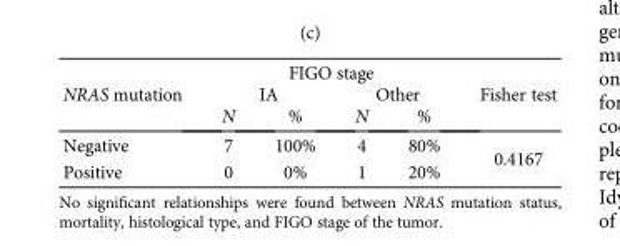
<table><thead><tr><td rowspan="3">NRAS mutation</td><td colspan="4">FIGO stage</td><td rowspan="3">Fisher test</td></tr><tr><td colspan="2">IA</td><td colspan="2">Other</td></tr><tr><td>N</td><td>%</td><td>N</td><td>%</td></tr></thead><tbody><tr><td>Negative</td><td>7</td><td>100%</td><td>4</td><td>80%</td><td rowspan="2">0.4167</td></tr><tr><td>Positive</td><td>0</td><td>0%</td><td>1</td><td>20%</td></tr></tbody></table>